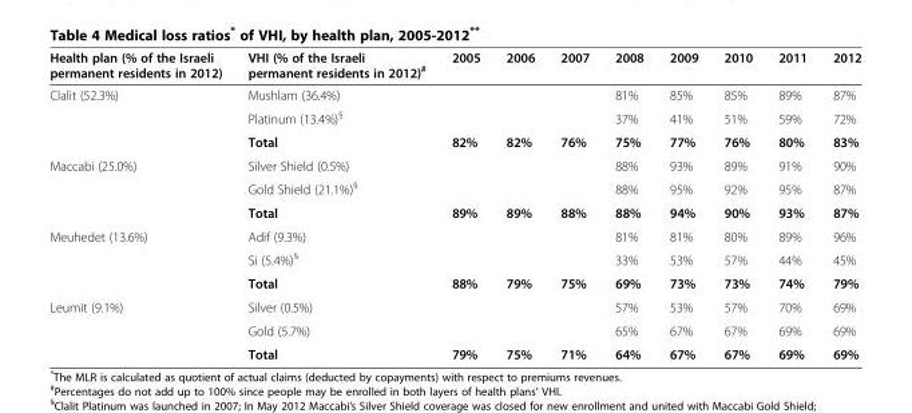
<table><thead><tr><td>Health plan (% of the Israeli permanent residents in 2012)</td><td>VHI (% of the Israeli permanent residents in 2012)<sup>#</sup></td><td>2005</td><td>2006</td><td>2007</td><td>2008</td><td>2009</td><td>2010</td><td>2011</td><td>2012</td></tr></thead><tbody><tr><td rowspan="3">Clalit (52.3%)</td><td>Mushlam (36.4%)</td><td></td><td></td><td></td><td>81%</td><td>85%</td><td>85%</td><td>89%</td><td>87%</td></tr><tr><td>Platinum (13.4%)<sup>§</sup></td><td></td><td></td><td></td><td>37%</td><td>41%</td><td>51%</td><td>59%</td><td>72%</td></tr><tr><td>Total</td><td>82%</td><td>82%</td><td>76%</td><td>75%</td><td>77%</td><td>76%</td><td>80%</td><td>83%</td></tr><tr><td rowspan="3">Maccabi (25.0%)</td><td>Silver Shield (0.5%)</td><td></td><td></td><td></td><td>88%</td><td>93%</td><td>89%</td><td>91%</td><td>90%</td></tr><tr><td>Gold Shield (21.1%)<sup>§</sup></td><td></td><td></td><td></td><td>88%</td><td>95%</td><td>92%</td><td>95%</td><td>87%</td></tr><tr><td>Total</td><td>89%</td><td>89%</td><td>88%</td><td>88%</td><td>94%</td><td>90%</td><td>93%</td><td>87%</td></tr><tr><td rowspan="3">Meuhedet (13.6%)</td><td>Adif (9.3%)</td><td></td><td></td><td></td><td>81%</td><td>81%</td><td>80%</td><td>89%</td><td>96%</td></tr><tr><td>Si (5.4%)<sup>§</sup></td><td></td><td></td><td></td><td>33%</td><td>53%</td><td>57%</td><td>44%</td><td>45%</td></tr><tr><td>Total</td><td>88%</td><td>79%</td><td>75%</td><td>69%</td><td>73%</td><td>73%</td><td>74%</td><td>79%</td></tr><tr><td rowspan="3">Leumit (9.1%)</td><td>Silver (0.5%)</td><td></td><td></td><td></td><td>57%</td><td>53%</td><td>57%</td><td>70%</td><td>69%</td></tr><tr><td>Gold (5.7%)</td><td></td><td></td><td></td><td>65%</td><td>67%</td><td>67%</td><td>69%</td><td>69%</td></tr><tr><td>Total</td><td>79%</td><td>75%</td><td>71%</td><td>64%</td><td>67%</td><td>67%</td><td>69%</td><td>69%</td></tr></tbody></table>